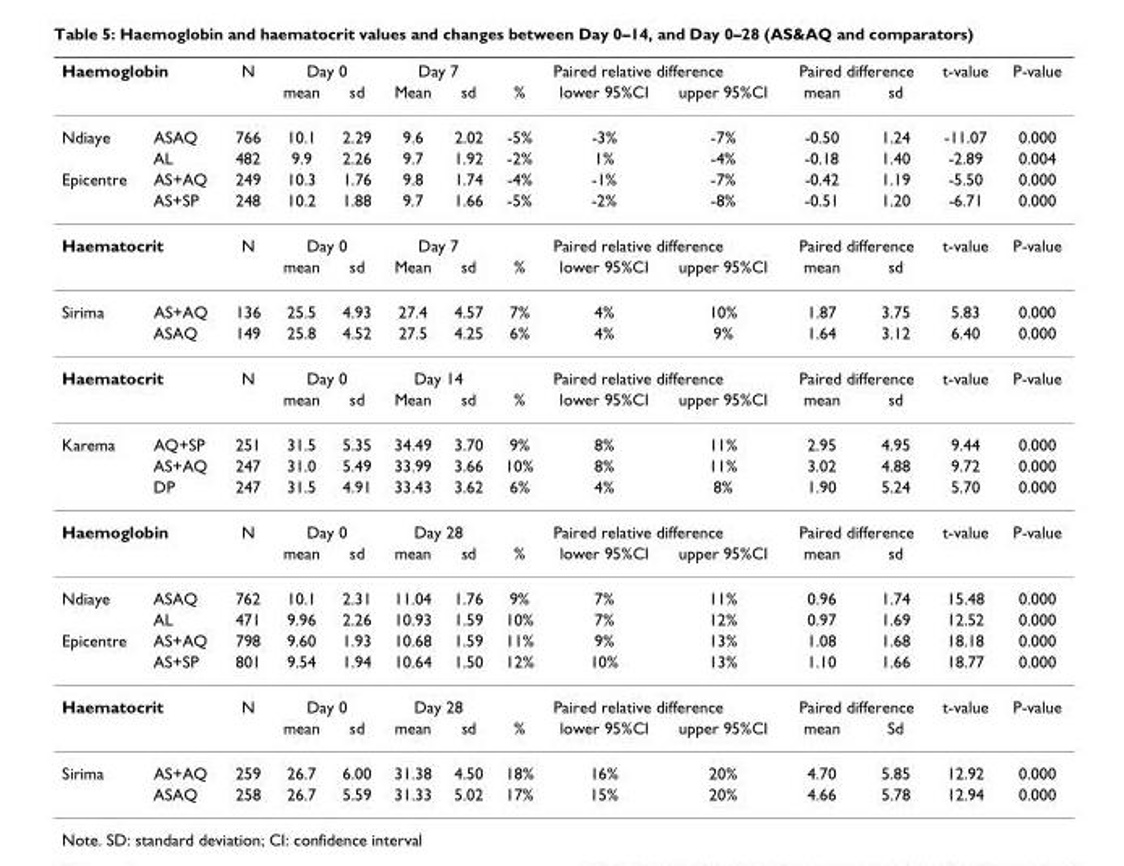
<table><thead><tr><td colspan="2">Haemoglobin</td><td rowspan="2">N</td><td colspan="2">Day 0</td><td colspan="2">Day 7</td><td colspan="3">Paired relative difference</td><td colspan="2">Paired difference</td><td rowspan="2">t-value</td><td rowspan="2">P-value</td></tr><tr><td></td><td></td><td>mean</td><td>sd</td><td>Mean</td><td>sd</td><td>%</td><td>lower 95%CI</td><td>upper 95%CI</td><td>mean</td><td>sd</td></tr></thead><tbody><tr><td rowspan="2">Ndiaye</td><td>ASAQ</td><td>766</td><td>10.1</td><td>2.29</td><td>9.6</td><td>2.02</td><td>-5%</td><td>-3%</td><td>-7%</td><td>-0.50</td><td>1.24</td><td>-11.07</td><td>0.000</td></tr><tr><td>AL</td><td>482</td><td>9.9</td><td>2.26</td><td>9.7</td><td>1.92</td><td>-2%</td><td>1%</td><td>-4%</td><td>-0.18</td><td>1.40</td><td>-2.89</td><td>0.004</td></tr><tr><td rowspan="2">Epicentre</td><td>AS+AQ</td><td>249</td><td>10.3</td><td>1.76</td><td>9.8</td><td>1.74</td><td>-4%</td><td>-1%</td><td>-7%</td><td>-0.42</td><td>1.19</td><td>-5.50</td><td>0.000</td></tr><tr><td>AS+SP</td><td>248</td><td>10.2</td><td>1.88</td><td>9.7</td><td>1.66</td><td>-5%</td><td>-2%</td><td>-8%</td><td>-0.51</td><td>1.20</td><td>-6.71</td><td>0.000</td></tr><tr><td colspan="2">Haematocrit</td><td>N</td><td colspan="2">Day 0</td><td colspan="2">Day 7</td><td colspan="3">Paired relative difference</td><td colspan="2">Paired difference</td><td>t-value</td><td>P-value</td></tr><tr><td></td><td></td><td></td><td>mean</td><td>sd</td><td>Mean</td><td>sd</td><td>%</td><td>lower 95%CI</td><td>upper 95%CI</td><td>mean</td><td>sd</td><td></td><td></td></tr><tr><td rowspan="2">Sirima</td><td>AS+AQ</td><td>136</td><td>25.5</td><td>4.93</td><td>27.4</td><td>4.57</td><td>7%</td><td>4%</td><td>10%</td><td>1.87</td><td>3.75</td><td>5.83</td><td>0.000</td></tr><tr><td>ASAQ</td><td>149</td><td>25.8</td><td>4.52</td><td>27.5</td><td>4.25</td><td>6%</td><td>4%</td><td>9%</td><td>1.64</td><td>3.12</td><td>6.40</td><td>0.000</td></tr><tr><td colspan="2">Haematocrit</td><td>N</td><td colspan="2">Day 0</td><td colspan="2">Day 14</td><td colspan="3">Paired relative difference</td><td colspan="2">Paired difference</td><td>t-value</td><td>P-value</td></tr><tr><td></td><td></td><td></td><td>mean</td><td>sd</td><td>Mean</td><td>sd</td><td>%</td><td>lower 95%CI</td><td>upper 95%CI</td><td>mean</td><td>sd</td><td></td><td></td></tr><tr><td rowspan="3">Karema</td><td>AQ+SP</td><td>251</td><td>31.5</td><td>5.35</td><td>34.49</td><td>3.70</td><td>9%</td><td>8%</td><td>11%</td><td>2.95</td><td>4.95</td><td>9.44</td><td>0.000</td></tr><tr><td>AS+AQ</td><td>247</td><td>31.0</td><td>5.49</td><td>33.99</td><td>3.66</td><td>10%</td><td>8%</td><td>11%</td><td>3.02</td><td>4.88</td><td>9.72</td><td>0.000</td></tr><tr><td>DP</td><td>247</td><td>31.5</td><td>4.91</td><td>33.43</td><td>3.62</td><td>6%</td><td>4%</td><td>8%</td><td>1.90</td><td>5.24</td><td>5.70</td><td>0.000</td></tr><tr><td colspan="2">Haemoglobin</td><td>N</td><td colspan="2">Day 0</td><td colspan="2">Day 28</td><td colspan="3">Paired relative difference</td><td colspan="2">Paired difference</td><td>t-value</td><td>P-value</td></tr><tr><td></td><td></td><td></td><td>mean</td><td>sd</td><td>mean</td><td>sd</td><td>%</td><td>lower 95%CI</td><td>upper 95%CI</td><td>mean</td><td>sd</td><td></td><td></td></tr><tr><td rowspan="2">Ndiaye</td><td>ASAQ</td><td>762</td><td>10.1</td><td>2.31</td><td>11.04</td><td>1.76</td><td>9%</td><td>7%</td><td>11%</td><td>0.96</td><td>1.74</td><td>15.48</td><td>0.000</td></tr><tr><td>AL</td><td>471</td><td>9.96</td><td>2.26</td><td>10.93</td><td>1.59</td><td>10%</td><td>7%</td><td>12%</td><td>0.97</td><td>1.69</td><td>12.52</td><td>0.000</td></tr><tr><td rowspan="2">Epicentre</td><td>AS+AQ</td><td>798</td><td>9.60</td><td>1.93</td><td>10.68</td><td>1.59</td><td>11%</td><td>9%</td><td>13%</td><td>1.08</td><td>1.68</td><td>18.18</td><td>0.000</td></tr><tr><td>AS+SP</td><td>801</td><td>9.54</td><td>1.94</td><td>10.64</td><td>1.50</td><td>12%</td><td>10%</td><td>13%</td><td>1.10</td><td>1.66</td><td>18.77</td><td>0.000</td></tr><tr><td colspan="2">Haematocrit</td><td>N</td><td colspan="2">Day 0</td><td colspan="2">Day 28</td><td colspan="3">Paired relative difference</td><td colspan="2">Paired difference</td><td>t-value</td><td>P-value</td></tr><tr><td></td><td></td><td></td><td>mean</td><td>sd</td><td>mean</td><td>sd</td><td>%</td><td>lower 95%CI</td><td>upper 95%CI</td><td>mean</td><td>Sd</td><td></td><td></td></tr><tr><td rowspan="2">Sirima</td><td>AS+AQ</td><td>259</td><td>26.7</td><td>6.00</td><td>31.38</td><td>4.50</td><td>18%</td><td>16%</td><td>20%</td><td>4.70</td><td>5.85</td><td>12.92</td><td>0.000</td></tr><tr><td>ASAQ</td><td>258</td><td>26.7</td><td>5.59</td><td>31.33</td><td>5.02</td><td>17%</td><td>15%</td><td>20%</td><td>4.66</td><td>5.78</td><td>12.94</td><td>0.000</td></tr></tbody></table>